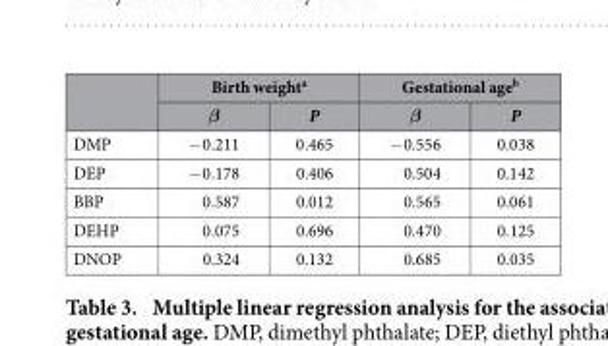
<table><thead><tr><td rowspan="2"></td><td colspan="2">Birth weight<sup>a</sup></td><td colspan="2">Gestational age<sup>b</sup></td></tr><tr><td>β</td><td>P</td><td>β</td><td>P</td></tr></thead><tbody><tr><td>DMP</td><td>− 0.211</td><td>0.465</td><td>− 0.556</td><td>0.038</td></tr><tr><td>DEP</td><td>− 0.178</td><td>0.406</td><td>0.504</td><td>0.142</td></tr><tr><td>BBP</td><td>0.587</td><td>0.012</td><td>0.565</td><td>0.061</td></tr><tr><td>DEHP</td><td>0.075</td><td>0.696</td><td>0.470</td><td>0.125</td></tr><tr><td>DNOP</td><td>0.324</td><td>0.132</td><td>0.685</td><td>0.035</td></tr></tbody></table>